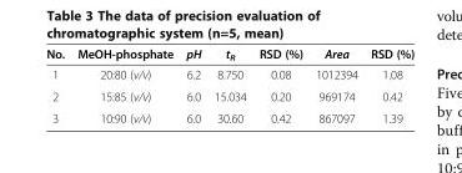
<table><thead><tr><td>No.</td><td>MeOH-phosphate</td><td>pH</td><td>t<sub>R</sub></td><td>RSD (%)</td><td>Area</td><td>RSD (%)</td></tr></thead><tbody><tr><td>1</td><td>20:80 (v/v)</td><td>6.2</td><td>8.750</td><td>0.08</td><td>1012394</td><td>1.08</td></tr><tr><td>2</td><td>15:85 (v/v)</td><td>6.0</td><td>15.034</td><td>0.20</td><td>969174</td><td>0.42</td></tr><tr><td>3</td><td>10:90 (v/v)</td><td>6.0</td><td>30.60</td><td>0.42</td><td>867097</td><td>1.39</td></tr></tbody></table>